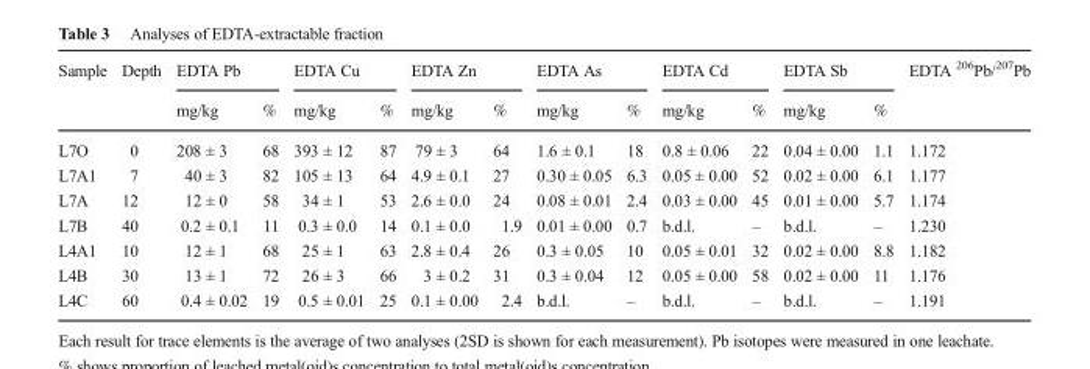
<table><thead><tr><td rowspan="2">Sample</td><td rowspan="2">Depth</td><td colspan="2">EDTA Pb</td><td colspan="2">EDTA Cu</td><td colspan="2">EDTA Zn</td><td colspan="2">EDTA As</td><td colspan="2">EDTA Cd</td><td colspan="2">EDTA Sb</td><td rowspan="2">EDTA <sup>206</sup>Pb/<sup>207</sup>Pb</td></tr><tr><td>mg/kg</td><td>%</td><td>mg/kg</td><td>%</td><td>mg/kg</td><td>%</td><td>mg/kg</td><td>%</td><td>mg/kg</td><td>%</td><td>mg/kg</td><td>%</td></tr></thead><tbody><tr><td>L7O</td><td>0</td><td>208 ± 3</td><td>68</td><td>393 ± 12</td><td>87</td><td>79 ± 3</td><td>64</td><td>1.6 ± 0.1</td><td>18</td><td>0.8 ± 0.06</td><td>22</td><td>0.04 ± 0.00</td><td>1.1</td><td>1.172</td></tr><tr><td>L7A1</td><td>7</td><td>40 ± 3</td><td>82</td><td>105 ± 13</td><td>64</td><td>4.9 ± 0.1</td><td>27</td><td>0.30 ± 0.05</td><td>6.3</td><td>0.05 ± 0.00</td><td>52</td><td>0.02 ± 0.00</td><td>6.1</td><td>1.177</td></tr><tr><td>L7A</td><td>12</td><td>12 ± 0</td><td>58</td><td>34 ± 1</td><td>53</td><td>2.6 ± 0.0</td><td>24</td><td>0.08 ± 0.01</td><td>2.4</td><td>0.03 ± 0.00</td><td>45</td><td>0.01 ± 0.00</td><td>5.7</td><td>1.174</td></tr><tr><td>L7B</td><td>40</td><td>0.2 ± 0.1</td><td>11</td><td>0.3 ± 0.0</td><td>14</td><td>0.1 ± 0.0</td><td>1.9</td><td>0.01 ± 0.00</td><td>0.7</td><td>b.d.l.</td><td>–</td><td>b.d.l.</td><td>–</td><td>1.230</td></tr><tr><td>L4A1</td><td>10</td><td>12 ± 1</td><td>68</td><td>25 ± 1</td><td>63</td><td>2.8 ± 0.4</td><td>26</td><td>0.3 ± 0.05</td><td>10</td><td>0.05 ± 0.01</td><td>32</td><td>0.02 ± 0.00</td><td>8.8</td><td>1.182</td></tr><tr><td>L4B</td><td>30</td><td>13 ± 1</td><td>72</td><td>26 ± 3</td><td>66</td><td>3 ± 0.2</td><td>31</td><td>0.3 ± 0.04</td><td>12</td><td>0.05 ± 0.00</td><td>58</td><td>0.02 ± 0.00</td><td>11</td><td>1.176</td></tr><tr><td>L4C</td><td>60</td><td>0.4 ± 0.02</td><td>19</td><td>0.5 ± 0.01</td><td>25</td><td>0.1 ± 0.00</td><td>2.4</td><td>b.d.l.</td><td>–</td><td>b.d.l.</td><td>–</td><td>b.d.l.</td><td>–</td><td>1.191</td></tr></tbody></table>